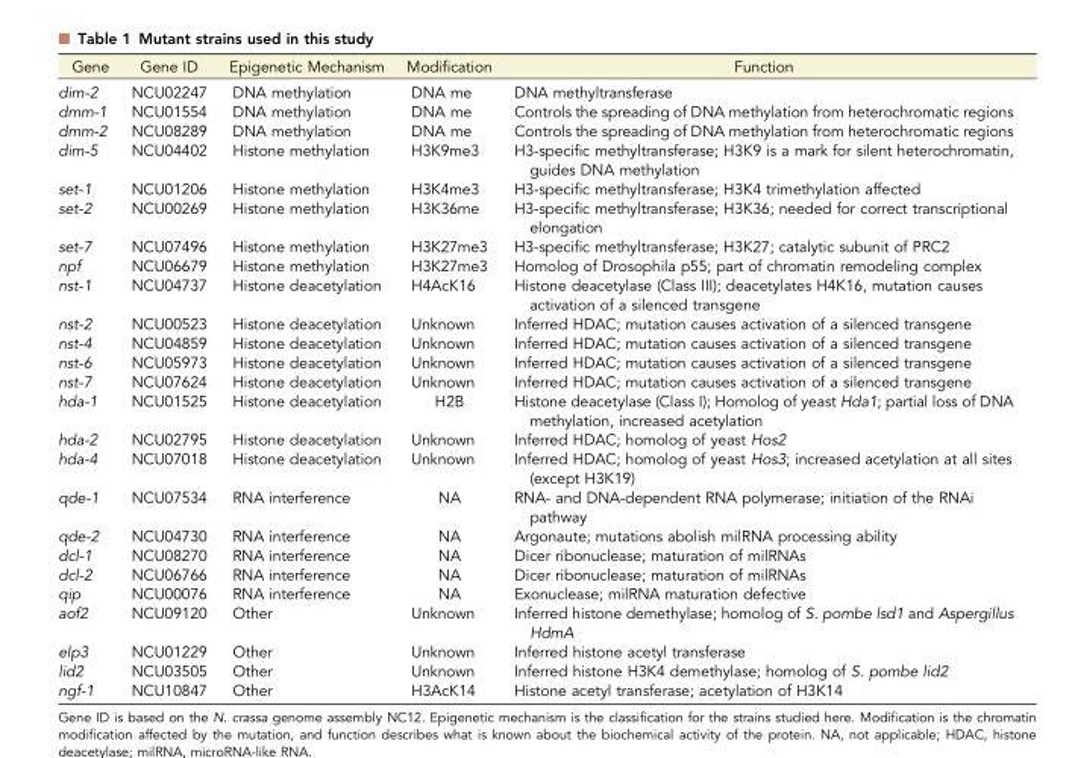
<table><thead><tr><td>Gene</td><td>Gene ID</td><td>Epigenetic Mechanism</td><td>Modification</td><td>Function</td></tr></thead><tbody><tr><td>dim-2</td><td>NCU02247</td><td>DNA methylation</td><td>DNA me</td><td>DNA methyltransferase</td></tr><tr><td>dmm-1</td><td>NCU01554</td><td>DNA methylation</td><td>DNA me</td><td>Controls the spreading of DNA methylation from heterochromatic regions</td></tr><tr><td>dmm-2</td><td>NCU08289</td><td>DNA methylation</td><td>DNA me</td><td>Controls the spreading of DNA methylation from heterochromatic regions</td></tr><tr><td>dim-5</td><td>NCU04402</td><td>Histone methylation</td><td>H3K9me3</td><td>H3-specific methyltransferase; H3K9 is a mark for silent heterochromatin, guides DNA methylation</td></tr><tr><td>set-1</td><td>NCU01206</td><td>Histone methylation</td><td>H3K4me3</td><td>H3-specific methyltransferase; H3K4 trimethylation affected</td></tr><tr><td>set-2</td><td>NCU00269</td><td>Histone methylation</td><td>H3K36me</td><td>H3-specific methyltransferase; H3K36; needed for correct transcriptional elongation</td></tr><tr><td>set-7</td><td>NCU07496</td><td>Histone methylation</td><td>H3K27me3</td><td>H3-specific methyltransferase; H3K27; catalytic subunit of PRC2</td></tr><tr><td>npf</td><td>NCU06679</td><td>Histone methylation</td><td>H3K27me3</td><td>Homolog of Drosophila p55; part of chromatin remodeling complex</td></tr><tr><td>nst-1</td><td>NCU04737</td><td>Histone deacetylation</td><td>H4AcK16</td><td>Histone deacetylase (Class III); deacetylates H4K16, mutation causes activation of a silenced transgene</td></tr><tr><td>nst-2</td><td>NCU00523</td><td>Histone deacetylation</td><td>Unknown</td><td>Inferred HDAC; mutation causes activation of a silenced transgene</td></tr><tr><td>nst-4</td><td>NCU04859</td><td>Histone deacetylation</td><td>Unknown</td><td>Inferred HDAC; mutation causes activation of a silenced transgene</td></tr><tr><td>nst-6</td><td>NCU05973</td><td>Histone deacetylation</td><td>Unknown</td><td>Inferred HDAC; mutation causes activation of a silenced transgene</td></tr><tr><td>nst-7</td><td>NCU07624</td><td>Histone deacetylation</td><td>Unknown</td><td>Inferred HDAC; mutation causes activation of a silenced transgene</td></tr><tr><td>hda-1</td><td>NCU01525</td><td>Histone deacetylation</td><td>H2B</td><td>Histone deacetylase (Class I); Homolog of yeast Hda1; partial loss of DNA methylation, increased acetylation</td></tr><tr><td>hda-2</td><td>NCU02795</td><td>Histone deacetylation</td><td>Unknown</td><td>Inferred HDAC; homolog of yeast Hos2</td></tr><tr><td>hda-4</td><td>NCU07018</td><td>Histone deacetylation</td><td>Unknown</td><td>Inferred HDAC; homolog of yeast Hos3; increased acetylation at all sites (except H3K19)</td></tr><tr><td>qde-1</td><td>NCU07534</td><td>RNA interference</td><td>NA</td><td>RNA- and DNA-dependent RNA polymerase; initiation of the RNAi pathway</td></tr><tr><td>qde-2</td><td>NCU04730</td><td>RNA interference</td><td>NA</td><td>Argonaute; mutations abolish milRNA processing ability</td></tr><tr><td>dcl-1</td><td>NCU08270</td><td>RNA interference</td><td>NA</td><td>Dicer ribonuclease; maturation of milRNAs</td></tr><tr><td>dcl-2</td><td>NCU06766</td><td>RNA interference</td><td>NA</td><td>Dicer ribonuclease; maturation of milRNAs</td></tr><tr><td>qip</td><td>NCU00076</td><td>RNA interference</td><td>NA</td><td>Exonuclease; milRNA maturation defective</td></tr><tr><td>aof2</td><td>NCU09120</td><td>Other</td><td>Unknown</td><td>Inferred histone demethylase; homolog of S. pombe lsd1 and Aspergillus HdmA</td></tr><tr><td>elp3</td><td>NCU01229</td><td>Other</td><td>Unknown</td><td>Inferred histone acetyl transferase</td></tr><tr><td>lid2</td><td>NCU03505</td><td>Other</td><td>Unknown</td><td>Inferred histone H3K4 demethylase; homolog of S. pombe lid2</td></tr><tr><td>ngf-1</td><td>NCU10847</td><td>Other</td><td>H3AcK14</td><td>Histone acetyl transferase; acetylation of H3K14</td></tr></tbody></table>